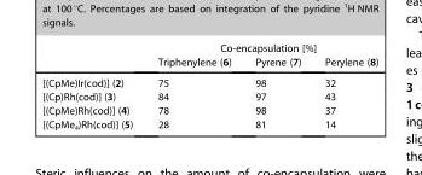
<table><thead><tr><td rowspan="2"></td><td colspan="3">Co-encapsulation [%]</td></tr><tr><td>Triphenylene (6)</td><td>Pyrene (7)</td><td>Perylene (8)</td></tr></thead><tbody><tr><td>[(CpMe)Ir(cod)] (2)</td><td>75</td><td>98</td><td>32</td></tr><tr><td>[(Cp)Rh(cod)] (3)</td><td>84</td><td>97</td><td>43</td></tr><tr><td>[(CpMe)Rh(cod)] (4)</td><td>78</td><td>98</td><td>37</td></tr><tr><td>[(CpMe<sub>4</sub>)Rh(cod)] (5)</td><td>28</td><td>81</td><td>14</td></tr></tbody></table>